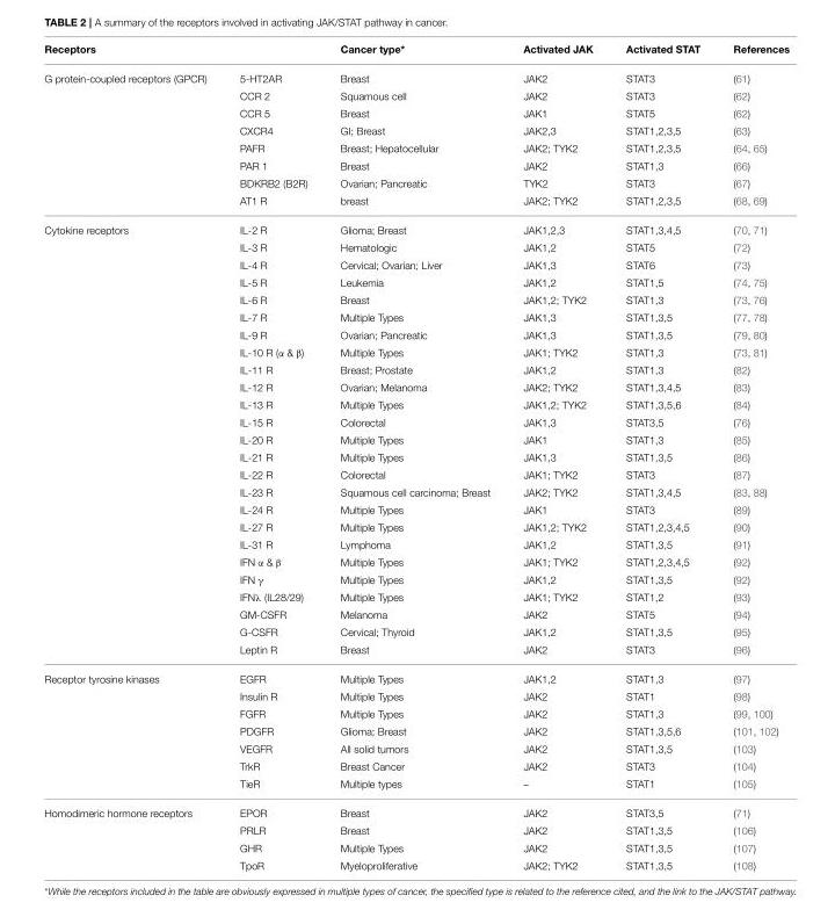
<table><thead><tr><td colspan="2">Receptors</td><td rowspan="2">Cancer type* Breast</td><td rowspan="2">Activated JAK JAK2</td><td rowspan="2">Activated STAT STAT3</td><td rowspan="2">References (61)</td></tr><tr><td>G protein-coupled receptors (GPCR)</td><td>5-HT2AR</td></tr></thead><tbody><tr><td></td><td>CCR 2</td><td>Squamous cell</td><td>JAK2</td><td>STAT3</td><td>(62)</td></tr><tr><td></td><td>CCR 5</td><td>Breast</td><td>JAK1</td><td>STAT5</td><td>(62)</td></tr><tr><td></td><td>CXCR4</td><td>GI; Breast</td><td>JAK2,3</td><td>STAT1,2,3,5</td><td>(63)</td></tr><tr><td></td><td>PAFR</td><td>Breast; Hepatocellular</td><td>JAK2; TYK2</td><td>STAT1,2,3,5</td><td>(64, 65)</td></tr><tr><td></td><td>PAR 1</td><td>Breast</td><td>JAK2</td><td>STAT1,3</td><td>(66)</td></tr><tr><td></td><td>BDKRB2 (B2R)</td><td>Ovarian; Pancreatic</td><td>TYK2</td><td>STAT3</td><td>(67)</td></tr><tr><td></td><td>AT1 R</td><td>breast</td><td>JAK2; TYK2</td><td>STAT1,2,3,5</td><td>(68, 69)</td></tr><tr><td rowspan="25">Cytokine receptors</td><td>IL-2 R</td><td>Glioma; Breast</td><td>JAK1,2,3</td><td>STAT1,3,4,5</td><td>(70, 71)</td></tr><tr><td>IL-3 R</td><td>Hematologic</td><td>JAK1,2</td><td>STAT5</td><td>(72)</td></tr><tr><td>IL-4 R</td><td>Cervical; Ovarian; Liver</td><td>JAK1,3</td><td>STAT6</td><td>(73)</td></tr><tr><td>IL-5 R</td><td>Leukemia</td><td>JAK1,2</td><td>STAT1,5</td><td>(74, 75)</td></tr><tr><td>IL-6 R</td><td>Breast</td><td>JAK1,2; TYK2</td><td>STAT1,3</td><td>(73, 76)</td></tr><tr><td>IL-7 R</td><td>Multiple Types</td><td>JAK1,3</td><td>STAT1,3,5</td><td>(77, 78)</td></tr><tr><td>IL-9 R</td><td>Ovarian; Pancreatic</td><td>JAK1,3</td><td>STAT1,3,5</td><td>(79, 80)</td></tr><tr><td>IL-10 R (α &amp; β)</td><td>Multiple Types</td><td>JAK1; TYK2</td><td>STAT1,3</td><td>(73, 81)</td></tr><tr><td>IL-11 R</td><td>Breast; Prostate</td><td>JAK1,2</td><td>STAT1,3</td><td>(82)</td></tr><tr><td>IL-12 R</td><td>Ovarian; Melanoma</td><td>JAK2; TYK2</td><td>STAT1,3,4,5</td><td>(83)</td></tr><tr><td>IL-13 R</td><td>Multiple Types</td><td>JAK1,2; TYK2</td><td>STAT1,3,5,6</td><td>(84)</td></tr><tr><td>IL-15 R</td><td>Colorectal</td><td>JAK1,3</td><td>STAT3,5</td><td>(76)</td></tr><tr><td>IL-20 R</td><td>Multiple Types</td><td>JAK1</td><td>STAT1,3</td><td>(85)</td></tr><tr><td>IL-21 R</td><td>Multiple Types</td><td>JAK1,3</td><td>STAT1,3,5</td><td>(86)</td></tr><tr><td>IL-22 R</td><td>Colorectal</td><td>JAK1; TYK2</td><td>STAT3</td><td>(87)</td></tr><tr><td>IL-23 R</td><td>Squamous cell carcinoma; Breast</td><td>JAK2; TYK2</td><td>STAT1,3,4,5</td><td>(83, 88)</td></tr><tr><td>IL-24 R</td><td>Multiple Types</td><td>JAK1</td><td>STAT3</td><td>(89)</td></tr><tr><td>IL-27 R</td><td>Multiple Types</td><td>JAK1,2; TYK2</td><td>STAT1,2,3,4,5</td><td>(90)</td></tr><tr><td>IL-31 R</td><td>Lymphoma</td><td>JAK1,2</td><td>STAT1,3,5</td><td>(91)</td></tr><tr><td>IFN α &amp; β</td><td>Multiple Types</td><td>JAK1; TYK2</td><td>STAT1,2,3,4,5</td><td>(92)</td></tr><tr><td>IFN γ</td><td>Multiple Types</td><td>JAK1,2</td><td>STAT1,3,5</td><td>(92)</td></tr><tr><td>IFNλ (IL28/29)</td><td>Multiple Types</td><td>JAK1; TYK2</td><td>STAT1,2</td><td>(93)</td></tr><tr><td>GM-CSFR</td><td>Melanoma</td><td>JAK2</td><td>STAT5</td><td>(94)</td></tr><tr><td>G-CSFR</td><td>Cervical; Thyroid</td><td>JAK1,2</td><td>STAT1,3,5</td><td>(95)</td></tr><tr><td>Leptin R</td><td>Breast</td><td>JAK2</td><td>STAT3</td><td>(96)</td></tr><tr><td rowspan="7">Receptor tyrosine kinases</td><td>EGFR</td><td>Multiple Types</td><td>JAK1,2</td><td>STAT1,3</td><td>(97)</td></tr><tr><td>Insulin R</td><td>Multiple Types</td><td>JAK2</td><td>STAT1</td><td>(98)</td></tr><tr><td>FGFR</td><td>Multiple Types</td><td>JAK2</td><td>STAT1,3</td><td>(99, 100)</td></tr><tr><td>PDGFR</td><td>Glioma; Breast</td><td>JAK2</td><td>STAT1,3,5,6</td><td>(101, 102)</td></tr><tr><td>VEGFR</td><td>All solid tumors</td><td>JAK2</td><td>STAT1,3,5</td><td>(103)</td></tr><tr><td>TrkR</td><td>Breast Cancer</td><td>JAK2</td><td>STAT3</td><td>(104)</td></tr><tr><td>TieR</td><td>Multiple types</td><td>–</td><td>STAT1</td><td>(105)</td></tr><tr><td rowspan="4">Homodimeric hormone receptors</td><td>EPOR</td><td>Breast</td><td>JAK2</td><td>STAT3,5</td><td>(71)</td></tr><tr><td>PRLR</td><td>Breast</td><td>JAK2</td><td>STAT1,3,5</td><td>(106)</td></tr><tr><td>GHR</td><td>Multiple Types</td><td>JAK2</td><td>STAT1,3,5</td><td>(107)</td></tr><tr><td>TpoR</td><td>Myeloproliferative</td><td>JAK2; TYK2</td><td>STAT1,3,5</td><td>(108)</td></tr></tbody></table>